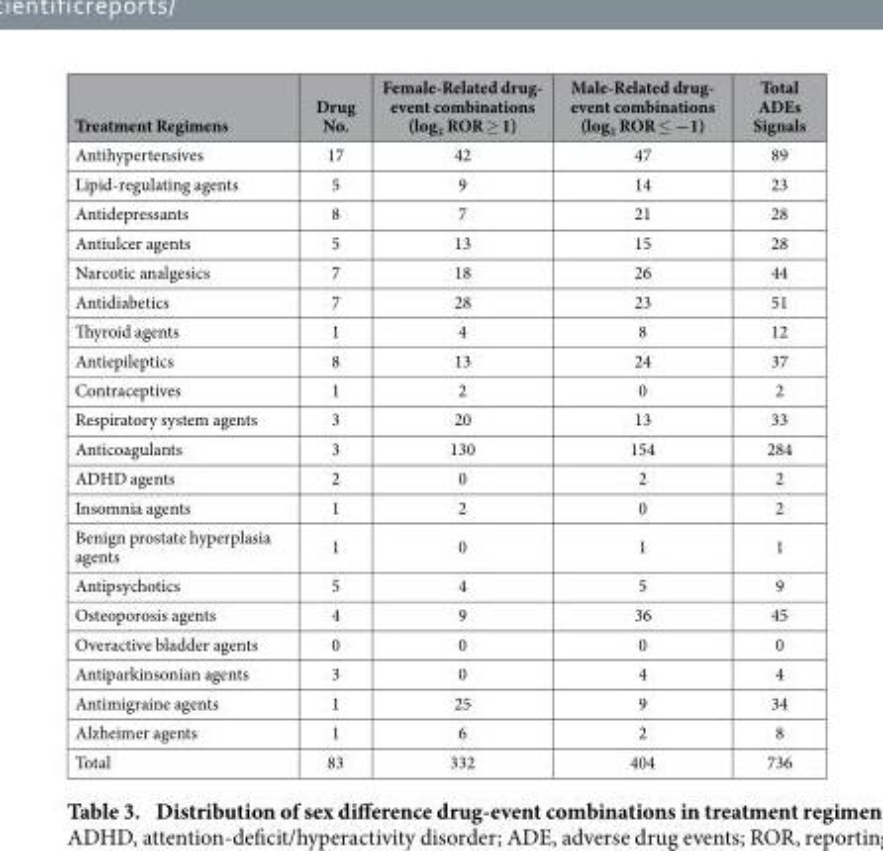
<table><thead><tr><td>Treatment Regimens</td><td>Drug No.</td><td>Female-Related drug- event combinations (log<sub>2</sub> ROR ≥ 1)</td><td>Male-Related drug- event combinations (log<sub>2</sub> ROR ≤ −1)</td><td>Total ADEs Signals</td></tr></thead><tbody><tr><td>Antihypertensives</td><td>17</td><td>42</td><td>47</td><td>89</td></tr><tr><td>Lipid-regulating agents</td><td>5</td><td>9</td><td>14</td><td>23</td></tr><tr><td>Antidepressants</td><td>8</td><td>7</td><td>21</td><td>28</td></tr><tr><td>Antiulcer agents</td><td>5</td><td>13</td><td>15</td><td>28</td></tr><tr><td>Narcotic analgesics</td><td>7</td><td>18</td><td>26</td><td>44</td></tr><tr><td>Antidiabetics</td><td>7</td><td>28</td><td>23</td><td>51</td></tr><tr><td>Thyroid agents</td><td>1</td><td>4</td><td>8</td><td>12</td></tr><tr><td>Antiepileptics</td><td>8</td><td>13</td><td>24</td><td>37</td></tr><tr><td>Contraceptives</td><td>1</td><td>2</td><td>0</td><td>2</td></tr><tr><td>Respiratory system agents</td><td>3</td><td>20</td><td>13</td><td>33</td></tr><tr><td>Anticoagulants</td><td>3</td><td>130</td><td>154</td><td>284</td></tr><tr><td>ADHD agents</td><td>2</td><td>0</td><td>2</td><td>2</td></tr><tr><td>Insomnia agents</td><td>1</td><td>2</td><td>0</td><td>2</td></tr><tr><td>Benign prostate hyperplasia agents</td><td>1</td><td>0</td><td>1</td><td>1</td></tr><tr><td>Antipsychotics</td><td>5</td><td>4</td><td>5</td><td>9</td></tr><tr><td>Osteoporosis agents</td><td>4</td><td>9</td><td>36</td><td>45</td></tr><tr><td>Overactive bladder agents</td><td>0</td><td>0</td><td>0</td><td>0</td></tr><tr><td>Antiparkinsonian agents</td><td>3</td><td>0</td><td>4</td><td>4</td></tr><tr><td>Antimigraine agents</td><td>1</td><td>25</td><td>9</td><td>34</td></tr><tr><td>Alzheimer agents</td><td>1</td><td>6</td><td>2</td><td>8</td></tr><tr><td>Total</td><td>83</td><td>332</td><td>404</td><td>736</td></tr></tbody></table>